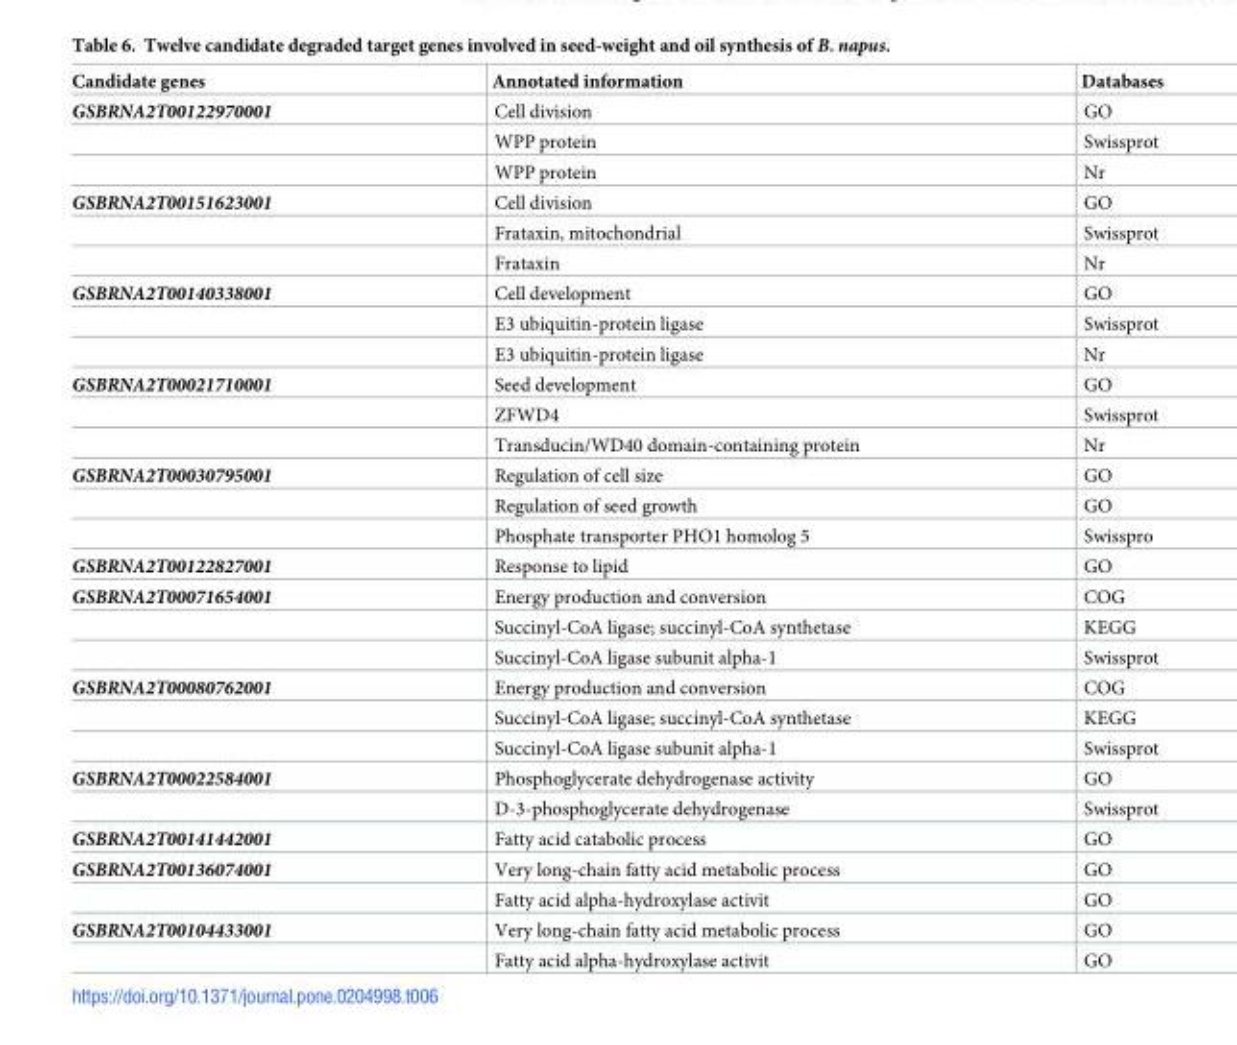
<table><thead><tr><td>Candidate genes</td><td>Annotated information</td><td>Databases</td></tr></thead><tbody><tr><td rowspan="3">GSBRNA2T00122970001</td><td>Cell division</td><td>GO</td></tr><tr><td>WPP protein</td><td>Swissprot</td></tr><tr><td>WPP protein</td><td>Nr</td></tr><tr><td rowspan="3">GSBRNA2T00151623001</td><td>Cell division</td><td>GO</td></tr><tr><td>Frataxin, mitochondrial</td><td>Swissprot</td></tr><tr><td>Frataxin</td><td>Nr</td></tr><tr><td rowspan="3">GSBRNA2T00140338001</td><td>Cell development</td><td>GO</td></tr><tr><td>E3 ubiquitin-protein ligase</td><td>Swissprot</td></tr><tr><td>E3 ubiquitin-protein ligase</td><td>Nr</td></tr><tr><td rowspan="3">GSBRNA2T00021710001</td><td>Seed development</td><td>GO</td></tr><tr><td>ZFWD4</td><td>Swissprot</td></tr><tr><td>Transducin/WD40 domain-containing protein</td><td>Nr</td></tr><tr><td rowspan="3">GSBRNA2T00030795001</td><td>Regulation of cell size</td><td>GO</td></tr><tr><td>Regulation of seed growth</td><td>GO</td></tr><tr><td>Phosphate transporter PHO1 homolog 5</td><td>Swisspro</td></tr><tr><td>GSBRNA2T00122827001</td><td>Response to lipid</td><td>GO</td></tr><tr><td rowspan="3">GSBRNA2T00071654001</td><td>Energy production and conversion</td><td>COG</td></tr><tr><td>Succinyl-CoA ligase; succinyl-CoA synthetase</td><td>KEGG</td></tr><tr><td>Succinyl-CoA ligase subunit alpha-1</td><td>Swissprot</td></tr><tr><td rowspan="3">GSBRNA2T00080762001</td><td>Energy production and conversion</td><td>COG</td></tr><tr><td>Succinyl-CoA ligase; succinyl-CoA synthetase</td><td>KEGG</td></tr><tr><td>Succinyl-CoA ligase subunit alpha-1</td><td>Swissprot</td></tr><tr><td rowspan="2">GSBRNA2T00022584001</td><td>Phosphoglycerate dehydrogenase activity</td><td>GO</td></tr><tr><td>D-3-phosphoglycerate dehydrogenase</td><td>Swissprot</td></tr><tr><td>GSBRNA2T00141442001</td><td>Fatty acid catabolic process</td><td>GO</td></tr><tr><td rowspan="2">GSBRNA2T00136074001</td><td>Very long-chain fatty acid metabolic process</td><td>GO</td></tr><tr><td>Fatty acid alpha-hydroxylase activit</td><td>GO</td></tr><tr><td rowspan="2">GSBRNA2T00104433001</td><td>Very long-chain fatty acid metabolic process</td><td>GO</td></tr><tr><td>Fatty acid alpha-hydroxylase activit</td><td>GO</td></tr></tbody></table>